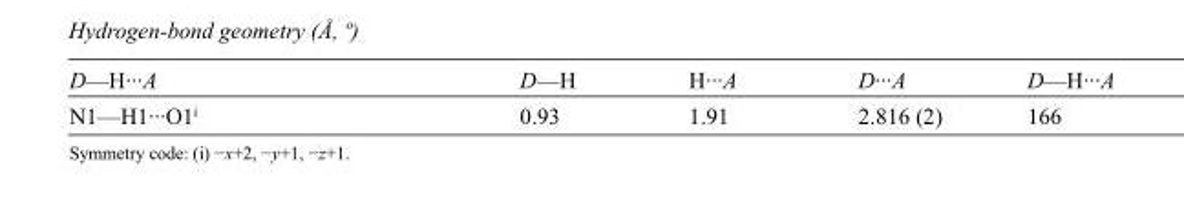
<table><tbody><tr><td>D—H···A</td><td>D—H</td><td>H···A</td><td>D···A</td><td>D—H···A</td></tr><tr><td>N1—H1···O1<sup>i</sup></td><td>0.93</td><td>1.91</td><td>2.816 (2)</td><td>166</td></tr></tbody></table>